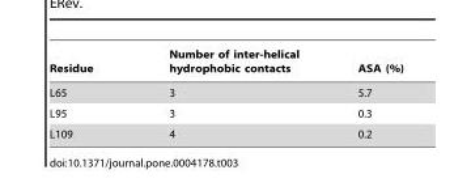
<table><thead><tr><td>Residue</td><td>Number of inter-helical hydrophobic contacts</td><td>ASA (%)</td></tr></thead><tbody><tr><td>L65</td><td>3</td><td>5.7</td></tr><tr><td>L95</td><td>3</td><td>0.3</td></tr><tr><td>L109</td><td>4</td><td>0.2</td></tr></tbody></table>